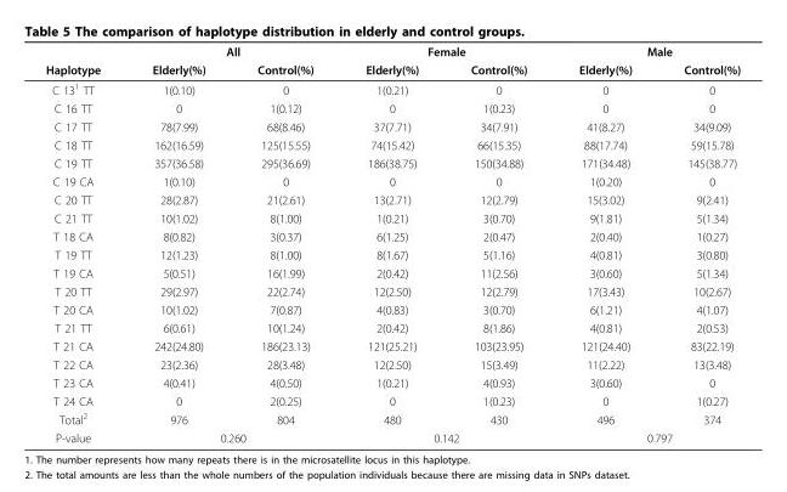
<table><thead><tr><td rowspan="2">Haplotype</td><td colspan="2">All</td><td colspan="2">Female</td><td colspan="2">Male</td></tr><tr><td>Elderly(%)</td><td>Control(%)</td><td>Elderly(%)</td><td>Control(%)</td><td>Elderly(%)</td><td>Control(%)</td></tr></thead><tbody><tr><td>C 13<sup>1</sup> TT</td><td>1(0.10)</td><td>0</td><td>1(0.21)</td><td>0</td><td>0</td><td>0</td></tr><tr><td>C 16 TT</td><td>0</td><td>1(0.12)</td><td>0</td><td>1(0.23)</td><td>0</td><td>0</td></tr><tr><td>C 17 TT</td><td>78(7.99)</td><td>68(8.46)</td><td>37(7.71)</td><td>34(7.91)</td><td>41(8.27)</td><td>34(9.09)</td></tr><tr><td>C 18 TT</td><td>162(16.59)</td><td>125(15.55)</td><td>74(15.42)</td><td>66(15.35)</td><td>88(17.74)</td><td>59(15.78)</td></tr><tr><td>C 19 TT</td><td>357(36.58)</td><td>295(36.69)</td><td>186(38.75)</td><td>150(34.88)</td><td>171(34.48)</td><td>145(38.77)</td></tr><tr><td>C 19 CA</td><td>1(0.10)</td><td>0</td><td>0</td><td>0</td><td>1(0.20)</td><td>0</td></tr><tr><td>C 20 TT</td><td>28(2.87)</td><td>21(2.61)</td><td>13(2.71)</td><td>12(2.79)</td><td>15(3.02)</td><td>9(2.41)</td></tr><tr><td>C 21 TT</td><td>10(1.02)</td><td>8(1.00)</td><td>1(0.21)</td><td>3(0.70)</td><td>9(1.81)</td><td>5(1.34)</td></tr><tr><td>T 18 CA</td><td>8(0.82)</td><td>3(0.37)</td><td>6(1.25)</td><td>2(0.47)</td><td>2(0.40)</td><td>1(0.27)</td></tr><tr><td>T 19 TT</td><td>12(1.23)</td><td>8(1.00)</td><td>8(1.67)</td><td>5(1.16)</td><td>4(0.81)</td><td>3(0.80)</td></tr><tr><td>T 19 CA</td><td>5(0.51)</td><td>16(1.99)</td><td>2(0.42)</td><td>11(2.56)</td><td>3(0.60)</td><td>5(1.34)</td></tr><tr><td>T 20 TT</td><td>29(2.97)</td><td>22(2.74)</td><td>12(2.50)</td><td>12(2.79)</td><td>17(3.43)</td><td>10(2.67)</td></tr><tr><td>T 20 CA</td><td>10(1.02)</td><td>7(0.87)</td><td>4(0.83)</td><td>3(0.70)</td><td>6(1.21)</td><td>4(1.07)</td></tr><tr><td>T 21 TT</td><td>6(0.61)</td><td>10(1.24)</td><td>2(0.42)</td><td>8(1.86)</td><td>4(0.81)</td><td>2(0.53)</td></tr><tr><td>T 21 CA</td><td>242(24.80)</td><td>186(23.13)</td><td>121(25.21)</td><td>103(23.95)</td><td>121(24.40)</td><td>83(22.19)</td></tr><tr><td>T 22 CA</td><td>23(2.36)</td><td>28(3.48)</td><td>12(2.50)</td><td>15(3.49)</td><td>11(2.22)</td><td>13(3.48)</td></tr><tr><td>T 23 CA</td><td>4(0.41)</td><td>4(0.50)</td><td>1(0.21)</td><td>4(0.93)</td><td>3(0.60)</td><td>0</td></tr><tr><td>T 24 CA</td><td>0</td><td>2(0.25)</td><td>0</td><td>1(0.23)</td><td>0</td><td>1(0.27)</td></tr><tr><td>Total<sup>2</sup></td><td>976</td><td>804</td><td>480</td><td>430</td><td>496</td><td>374</td></tr><tr><td>P-value</td><td colspan="2">0.260</td><td colspan="2">0.142</td><td colspan="2">0.797</td></tr></tbody></table>